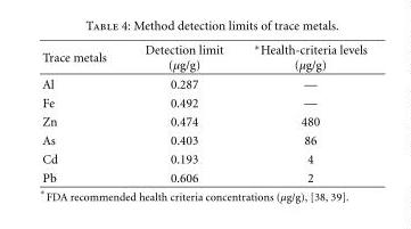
<table><thead><tr><td>Trace metals</td><td>Detection limit (µg/g)</td><td>∗Health-criteria levels (µg/g)</td></tr></thead><tbody><tr><td>Al</td><td>0.287</td><td>—</td></tr><tr><td>Fe</td><td>0.492</td><td>—</td></tr><tr><td>Zn</td><td>0.474</td><td>480</td></tr><tr><td>As</td><td>0.403</td><td>86</td></tr><tr><td>Cd</td><td>0.193</td><td>4</td></tr><tr><td>Pb</td><td>0.606</td><td>2</td></tr></tbody></table>